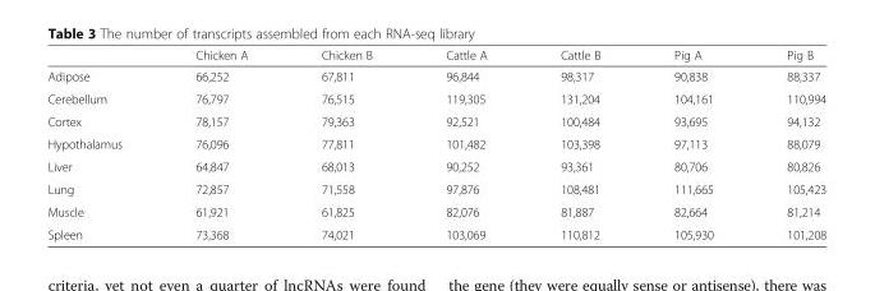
<table><thead><tr><td></td><td>Chicken A</td><td>Chicken B</td><td>Cattle A</td><td>Cattle B</td><td>Pig A</td><td>Pig B</td></tr></thead><tbody><tr><td>Adipose</td><td>66,252</td><td>67,811</td><td>96,844</td><td>98,317</td><td>90,838</td><td>88,337</td></tr><tr><td>Cerebellum</td><td>76,797</td><td>76,515</td><td>119,305</td><td>131,204</td><td>104,161</td><td>110,994</td></tr><tr><td>Cortex</td><td>78,157</td><td>79,363</td><td>92,521</td><td>100,484</td><td>93,695</td><td>94,132</td></tr><tr><td>Hypothalamus</td><td>76,096</td><td>77,811</td><td>101,482</td><td>103,398</td><td>97,113</td><td>88,079</td></tr><tr><td>Liver</td><td>64,847</td><td>68,013</td><td>90,252</td><td>93,361</td><td>80,706</td><td>80,826</td></tr><tr><td>Lung</td><td>72,857</td><td>71,558</td><td>97,876</td><td>108,481</td><td>111,665</td><td>105,423</td></tr><tr><td>Muscle</td><td>61,921</td><td>61,825</td><td>82,076</td><td>81,887</td><td>82,664</td><td>81,214</td></tr><tr><td>Spleen</td><td>73,368</td><td>74,021</td><td>103,069</td><td>110,812</td><td>105,930</td><td>101,208</td></tr></tbody></table>